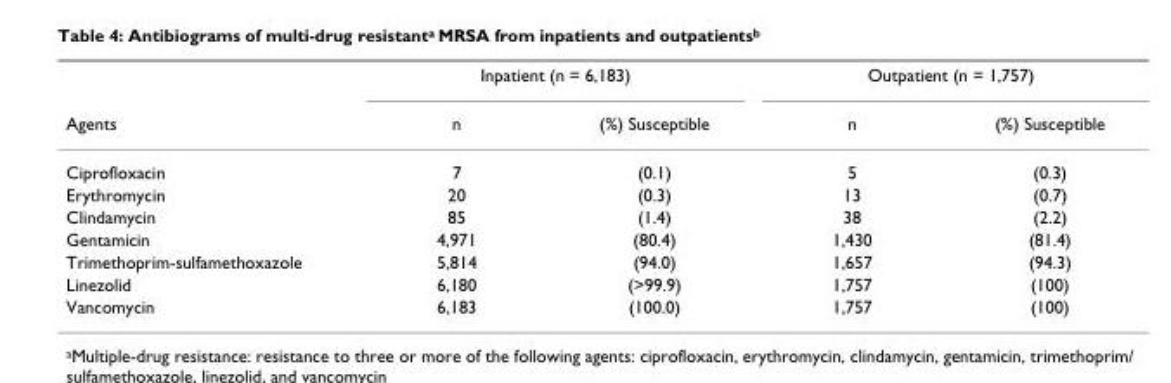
<table><thead><tr><td rowspan="2">Agents</td><td colspan="2">Inpatient (n = 6,183)</td><td colspan="2">Outpatient (n = 1,757)</td></tr><tr><td>n</td><td>(%) Susceptible</td><td>n</td><td>(%) Susceptible</td></tr></thead><tbody><tr><td>Ciprofloxacin</td><td>7</td><td>(0.1)</td><td>5</td><td>(0.3)</td></tr><tr><td>Erythromycin</td><td>20</td><td>(0.3)</td><td>13</td><td>(0.7)</td></tr><tr><td>Clindamycin</td><td>85</td><td>(1.4)</td><td>38</td><td>(2.2)</td></tr><tr><td>Gentamicin</td><td>4,971</td><td>(80.4)</td><td>1,430</td><td>(81.4)</td></tr><tr><td>Trimethoprim-sulfamethoxazole</td><td>5,814</td><td>(94.0)</td><td>1,657</td><td>(94.3)</td></tr><tr><td>Linezolid</td><td>6,180</td><td>(&gt;99.9)</td><td>1,757</td><td>(100)</td></tr><tr><td>Vancomycin</td><td>6,183</td><td>(100.0)</td><td>1,757</td><td>(100)</td></tr></tbody></table>